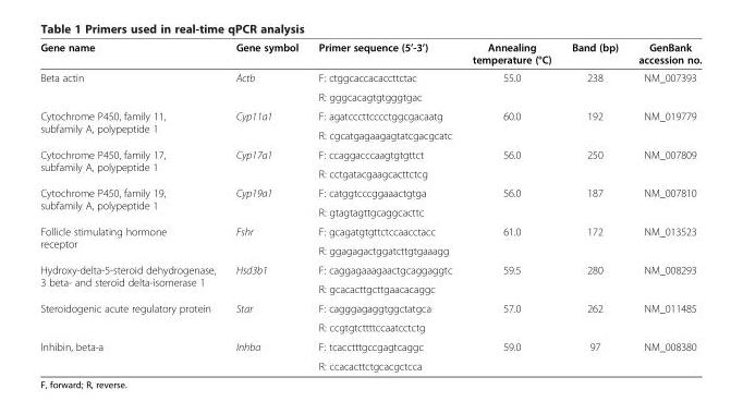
<table><thead><tr><td>Gene name</td><td>Gene symbol</td><td>Primer sequence (5’-3’)</td><td>Annealing temperature (°C)</td><td>Band (bp)</td><td>GenBank accession no.</td></tr></thead><tbody><tr><td rowspan="2">Beta actin</td><td rowspan="2">Actb</td><td>F: ctggcaccacaccttctac</td><td rowspan="2">55.0</td><td rowspan="2">238</td><td rowspan="2">NM_007393</td></tr><tr><td>R: gggcacagtgtgggtgac</td></tr><tr><td rowspan="2">Cytochrome P450, family 11, subfamily A, polypeptide 1</td><td rowspan="2">Cyp11a1</td><td>F: agatcccttcccctggcgacaatg</td><td rowspan="2">60.0</td><td rowspan="2">192</td><td rowspan="2">NM_019779</td></tr><tr><td>R: cgcatgagaagagtatcgacgcatc</td></tr><tr><td rowspan="2">Cytochrome P450, family 17, subfamily A, polypeptide 1</td><td rowspan="2">Cyp17a1</td><td>F: ccaggacccaagtgtgttct</td><td rowspan="2">56.0</td><td rowspan="2">250</td><td rowspan="2">NM_007809</td></tr><tr><td>R: cctgatacgaagcacttctcg</td></tr><tr><td rowspan="2">Cytochrome P450, family 19, subfamily A, polypeptide 1</td><td rowspan="2">Cyp19a1</td><td>F: catggtcccggaaactgtga</td><td rowspan="2">56.0</td><td rowspan="2">187</td><td rowspan="2">NM_007810</td></tr><tr><td>R: gtagtagttgcaggcacttc</td></tr><tr><td rowspan="2">Follicle stimulating hormone receptor</td><td rowspan="2">Fshr</td><td>F: gcagatgtgttctccaacctacc</td><td rowspan="2">61.0</td><td rowspan="2">172</td><td rowspan="2">NM_013523</td></tr><tr><td>R: ggagagactggatcttgtgaaagg</td></tr><tr><td rowspan="2">Hydroxy-delta-5-steroid dehydrogenase, 3 beta- and steroid delta-isomerase 1</td><td rowspan="2">Hsd3b1</td><td>F: caggagaaagaactgcaggaggtc</td><td rowspan="2">59.5</td><td rowspan="2">280</td><td rowspan="2">NM_008293</td></tr><tr><td>R: gcacacttgcttgaacacaggc</td></tr><tr><td rowspan="2">Steroidogenic acute regulatory protein</td><td rowspan="2">Star</td><td>F: cagggagaggtggctatgca</td><td rowspan="2">57.0</td><td rowspan="2">262</td><td rowspan="2">NM_011485</td></tr><tr><td>R: ccgtgtcttttccaatcctctg</td></tr><tr><td rowspan="2">Inhibin, beta-a</td><td rowspan="2">Inhba</td><td>F: tcacctttgccgagtcaggc</td><td rowspan="2">59.0</td><td rowspan="2">97</td><td rowspan="2">NM_008380</td></tr><tr><td>R: ccacacttctgcacgctcca</td></tr></tbody></table>